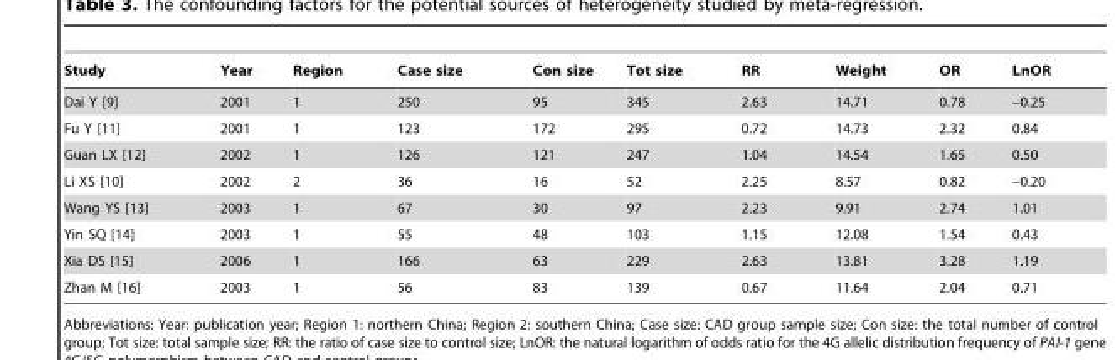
<table><thead><tr><td>Study</td><td>Year</td><td>Region</td><td>Case size</td><td>Con size</td><td>Tot size</td><td>RR</td><td>Weight</td><td>OR</td><td>LnOR</td></tr></thead><tbody><tr><td>Dai Y [9]</td><td>2001</td><td>1</td><td>250</td><td>95</td><td>345</td><td>2.63</td><td>14.71</td><td>0.78</td><td>–0.25</td></tr><tr><td>Fu Y [11]</td><td>2001</td><td>1</td><td>123</td><td>172</td><td>295</td><td>0.72</td><td>14.73</td><td>2.32</td><td>0.84</td></tr><tr><td>Guan LX [12]</td><td>2002</td><td>1</td><td>126</td><td>121</td><td>247</td><td>1.04</td><td>14.54</td><td>1.65</td><td>0.50</td></tr><tr><td>Li XS [10]</td><td>2002</td><td>2</td><td>36</td><td>16</td><td>52</td><td>2.25</td><td>8.57</td><td>0.82</td><td>–0.20</td></tr><tr><td>Wang YS [13]</td><td>2003</td><td>1</td><td>67</td><td>30</td><td>97</td><td>2.23</td><td>9.91</td><td>2.74</td><td>1.01</td></tr><tr><td>Yin SQ [14]</td><td>2003</td><td>1</td><td>55</td><td>48</td><td>103</td><td>1.15</td><td>12.08</td><td>1.54</td><td>0.43</td></tr><tr><td>Xia DS [15]</td><td>2006</td><td>1</td><td>166</td><td>63</td><td>229</td><td>2.63</td><td>13.81</td><td>3.28</td><td>1.19</td></tr><tr><td>Zhan M [16]</td><td>2003</td><td>1</td><td>56</td><td>83</td><td>139</td><td>0.67</td><td>11.64</td><td>2.04</td><td>0.71</td></tr></tbody></table>